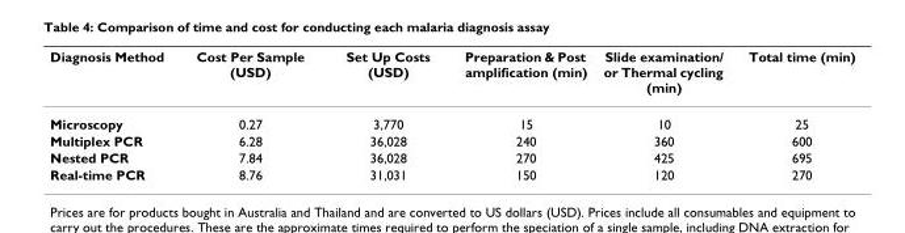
<table><thead><tr><td>Diagnosis Method</td><td>Cost Per Sample (USD)</td><td>Set Up Costs (USD)</td><td>Preparation &amp; Post amplification (min)</td><td>Slide examination/ or Thermal cycling (min)</td><td>Total time (min)</td></tr></thead><tbody><tr><td>Microscopy</td><td>0.27</td><td>3,770</td><td>15</td><td>10</td><td>25</td></tr><tr><td>Multiplex PCR</td><td>6.28</td><td>36,028</td><td>240</td><td>360</td><td>600</td></tr><tr><td>Nested PCR</td><td>7.84</td><td>36,028</td><td>270</td><td>425</td><td>695</td></tr><tr><td>Real-time PCR</td><td>8.76</td><td>31,031</td><td>150</td><td>120</td><td>270</td></tr></tbody></table>